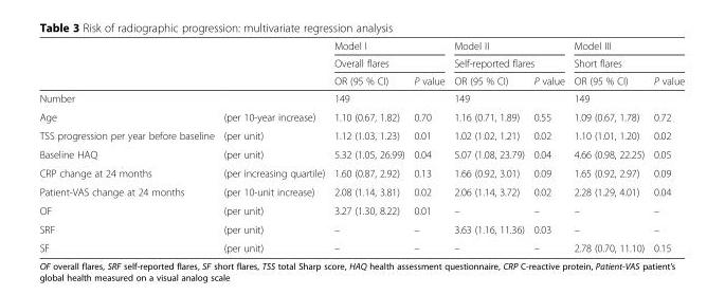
<table><thead><tr><td rowspan="3"></td><td rowspan="3"></td><td rowspan="2" colspan="2">Model I Overall flares</td><td rowspan="2" colspan="2">Model II Self-reported flares</td><td rowspan="2" colspan="2">Model III Short flares</td></tr><tr></tr><tr><td>OR (95 % CI)</td><td>P value</td><td>OR (95 % CI)</td><td>P value</td><td>OR (95 % CI)</td><td>P value</td></tr></thead><tbody><tr><td>Number</td><td></td><td colspan="2">149</td><td colspan="2">149</td><td colspan="2">149</td></tr><tr><td>Age</td><td>(per 10-year increase)</td><td>1.10 (0.67, 1.82)</td><td>0.70</td><td>1.16 (0.71, 1.89)</td><td>0.55</td><td>1.09 (0.67, 1.78)</td><td>0.72</td></tr><tr><td>TSS progression per year before baseline</td><td>(per unit)</td><td>1.12 (1.03, 1.23)</td><td>0.01</td><td>1.02 (1.02, 1.21)</td><td>0.02</td><td>1.10 (1.01, 1.20)</td><td>0.02</td></tr><tr><td>Baseline HAQ</td><td>(per unit)</td><td>5.32 (1.05, 26.99)</td><td>0.04</td><td>5.07 (1.08, 23.79)</td><td>0.04</td><td>4.66 (0.98, 22.25)</td><td>0.05</td></tr><tr><td>CRP change at 24 months</td><td>(per increasing quartile)</td><td>1.60 (0.87, 2.92)</td><td>0.13</td><td>1.66 (0.92, 3.01)</td><td>0.09</td><td>1.65 (0.92, 2.97)</td><td>0.09</td></tr><tr><td>Patient-VAS change at 24 months</td><td>(per 10-unit increase)</td><td>2.08 (1.14, 3.81)</td><td>0.02</td><td>2.06 (1.14, 3.72)</td><td>0.02</td><td>2.28 (1.29, 4.01)</td><td>0.04</td></tr><tr><td>OF</td><td>(per unit)</td><td>3.27 (1.30, 8.22)</td><td>0.01</td><td>–</td><td>–</td><td>–</td><td>–</td></tr><tr><td>SRF</td><td>(per unit)</td><td>–</td><td>–</td><td>3.63 (1.16, 11.36)</td><td>0.03</td><td>–</td><td>–</td></tr><tr><td>SF</td><td>(per unit)</td><td>–</td><td>–</td><td>–</td><td>–</td><td>2.78 (0.70, 11.10)</td><td>0.15</td></tr></tbody></table>